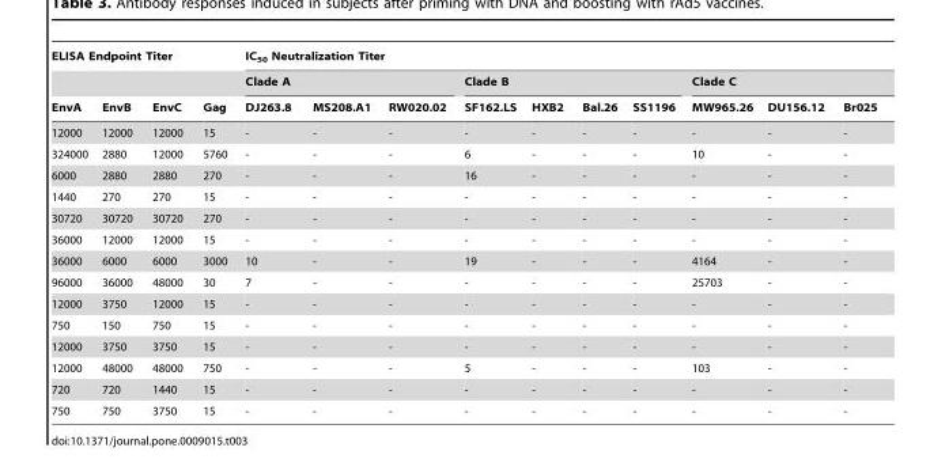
<table><thead><tr><td colspan="4">ELISA Endpoint Titer</td><td colspan="10">IC<sub>50</sub> Neutralization Titer</td></tr><tr><td rowspan="2">EnvA</td><td rowspan="2">EnvB</td><td rowspan="2">EnvC</td><td rowspan="2">Gag</td><td colspan="3">Clade A</td><td colspan="4">Clade B</td><td colspan="3">Clade C</td></tr><tr><td>DJ263.8</td><td>MS208.A1</td><td>RW020.02</td><td>SF162.LS</td><td>HXB2</td><td>Bal.26</td><td>SS1196</td><td>MW965.26</td><td>DU156.12</td><td>Br025</td></tr></thead><tbody><tr><td>12000</td><td>12000</td><td>12000</td><td>15</td><td>-</td><td>-</td><td>-</td><td>-</td><td>-</td><td>-</td><td>-</td><td>-</td><td>-</td><td>-</td></tr><tr><td>324000</td><td>2880</td><td>12000</td><td>5760</td><td>-</td><td>-</td><td>-</td><td>6</td><td>-</td><td>-</td><td>-</td><td>10</td><td>-</td><td>-</td></tr><tr><td>6000</td><td>2880</td><td>2880</td><td>270</td><td>-</td><td>-</td><td>-</td><td>16</td><td>-</td><td>-</td><td>-</td><td>-</td><td>-</td><td>-</td></tr><tr><td>1440</td><td>270</td><td>270</td><td>15</td><td>-</td><td>-</td><td>-</td><td>-</td><td>-</td><td>-</td><td>-</td><td>-</td><td>-</td><td>-</td></tr><tr><td>30720</td><td>30720</td><td>30720</td><td>270</td><td>-</td><td>-</td><td>-</td><td>-</td><td>-</td><td>-</td><td>-</td><td>-</td><td>-</td><td>-</td></tr><tr><td>36000</td><td>12000</td><td>12000</td><td>15</td><td>-</td><td>-</td><td>-</td><td>-</td><td>-</td><td>-</td><td>-</td><td>-</td><td>-</td><td>-</td></tr><tr><td>36000</td><td>6000</td><td>6000</td><td>3000</td><td>10</td><td>-</td><td>-</td><td>19</td><td>-</td><td>-</td><td>-</td><td>4164</td><td>-</td><td>-</td></tr><tr><td>96000</td><td>36000</td><td>48000</td><td>30</td><td>7</td><td>-</td><td>-</td><td>-</td><td>-</td><td>-</td><td>-</td><td>25703</td><td>-</td><td>-</td></tr><tr><td>12000</td><td>3750</td><td>12000</td><td>15</td><td>-</td><td>-</td><td>-</td><td>-</td><td>-</td><td>-</td><td>-</td><td>-</td><td>-</td><td>-</td></tr><tr><td>750</td><td>150</td><td>750</td><td>15</td><td>-</td><td>-</td><td>-</td><td>-</td><td>-</td><td>-</td><td>-</td><td>-</td><td>-</td><td>-</td></tr><tr><td>12000</td><td>3750</td><td>3750</td><td>15</td><td>-</td><td>-</td><td>-</td><td>-</td><td>-</td><td>-</td><td>-</td><td>-</td><td>-</td><td>-</td></tr><tr><td>12000</td><td>48000</td><td>48000</td><td>750</td><td>-</td><td>-</td><td>-</td><td>5</td><td>-</td><td>-</td><td>-</td><td>103</td><td>-</td><td>-</td></tr><tr><td>720</td><td>720</td><td>1440</td><td>15</td><td>-</td><td>-</td><td>-</td><td>-</td><td>-</td><td>-</td><td>-</td><td>-</td><td>-</td><td>-</td></tr><tr><td>750</td><td>750</td><td>3750</td><td>15</td><td>-</td><td>-</td><td>-</td><td>-</td><td>-</td><td>-</td><td>-</td><td>-</td><td>-</td><td>-</td></tr></tbody></table>